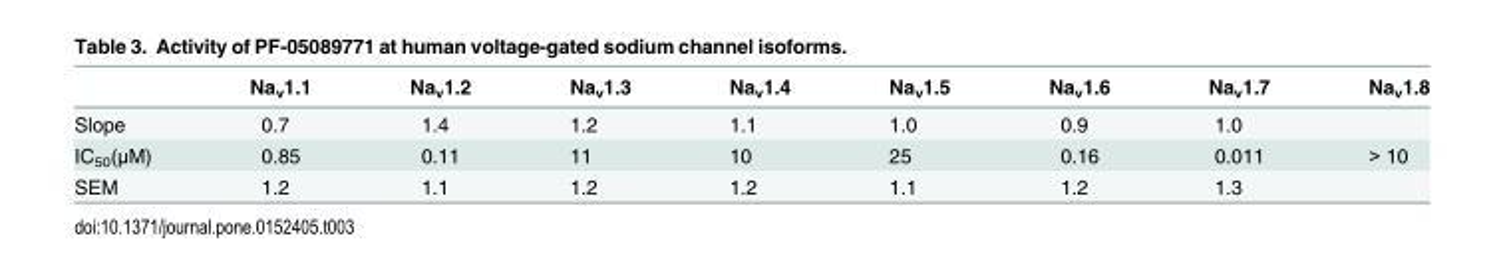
<table><thead><tr><td></td><td>Na<sub>v</sub>1.1</td><td>Na<sub>v</sub>1.2</td><td>Na<sub>v</sub>1.3</td><td>Na<sub>v</sub>1.4</td><td>Na<sub>v</sub>1.5</td><td>Na<sub>v</sub>1.6</td><td>Na<sub>v</sub>1.7</td><td>Na<sub>v</sub>1.8</td></tr></thead><tbody><tr><td>Slope</td><td>0.7</td><td>1.4</td><td>1.2</td><td>1.1</td><td>1.0</td><td>0.9</td><td>1.0</td><td></td></tr><tr><td>IC<sub>50</sub>(μM)</td><td>0.85</td><td>0.11</td><td>11</td><td>10</td><td>25</td><td>0.16</td><td>0.011</td><td>&gt; 10</td></tr><tr><td>SEM</td><td>1.2</td><td>1.1</td><td>1.2</td><td>1.2</td><td>1.1</td><td>1.2</td><td>1.3</td><td></td></tr></tbody></table>